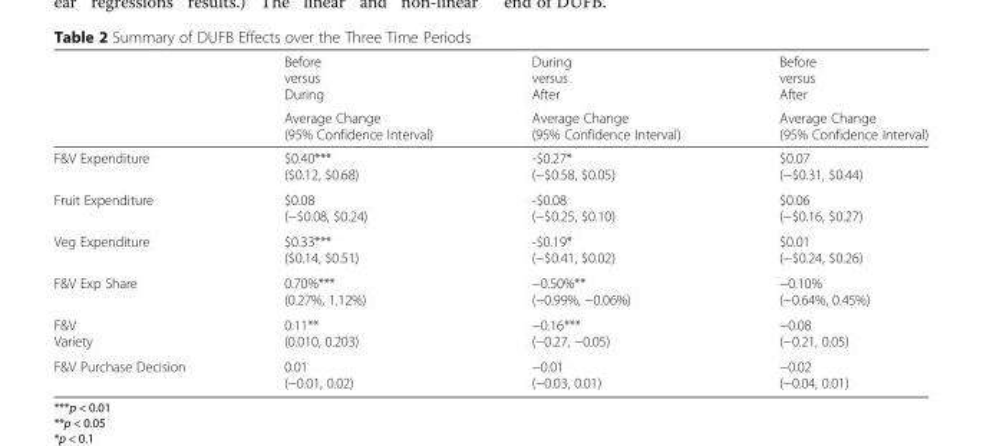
<table><thead><tr><td rowspan="2"></td><td rowspan="2">Before versus During Average Change (95% Confidence Interval)</td><td rowspan="2">During versus After Average Change (95% Confidence Interval)</td><td rowspan="2">Before versus After Average Change (95% Confidence Interval)</td></tr><tr></tr></thead><tbody><tr><td>F&amp;V Expenditure</td><td>$0.40*** ($0.12, $0.68)</td><td>-$0.27* (−$0.58, $0.05)</td><td>$0.07 (−$0.31, $0.44)</td></tr><tr><td>Fruit Expenditure</td><td>$0.08 (−$0.08, $0.24)</td><td>-$0.08 (−$0.25, $0.10)</td><td>$0.06 (−$0.16, $0.27)</td></tr><tr><td>Veg Expenditure</td><td>$0.33*** ($0.14, $0.51)</td><td>-$0.19* (−$0.41, $0.02)</td><td>$0.01 (−$0.24, $0.26)</td></tr><tr><td>F&amp;V Exp Share</td><td>0.70%*** (0.27%, 1.12%)</td><td>−0.50%** (−0.99%, −0.06%)</td><td>−0.10% (−0.64%, 0.45%)</td></tr><tr><td>F&amp;V Variety</td><td>0.11** (0.010, 0.203)</td><td>−0.16*** (−0.27, −0.05)</td><td>−0.08 (−0.21, 0.05)</td></tr><tr><td>F&amp;V Purchase Decision</td><td>0.01 (−0.01, 0.02)</td><td>−0.01 (−0.03, 0.01)</td><td>−0.02 (−0.04, 0.01)</td></tr></tbody></table>